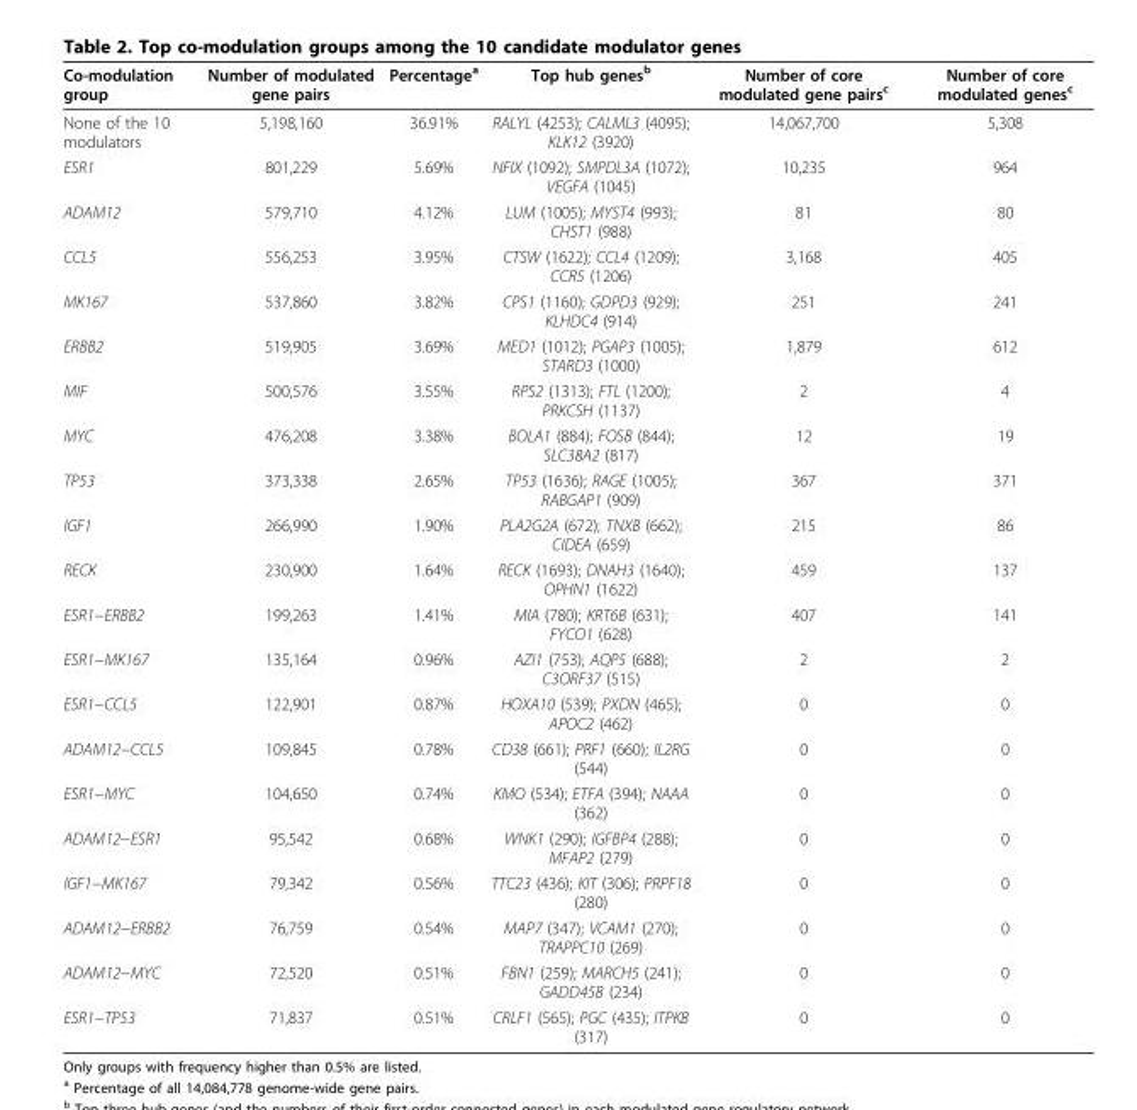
<table><tbody><tr><td>Co-modulation group</td><td>Number of modulated gene pairs</td><td>Percentage<sup>a</sup></td><td>Top hub genes<sup>b</sup></td><td>Number of core modulated gene pairs<sup>c</sup></td><td>Number of core modulated genes<sup>c</sup></td></tr><tr><td>None of the 10 modulators</td><td>5,198,160</td><td>36.91%</td><td>RALYL (4253); CALML3 (4095); KLK12 (3920)</td><td>14,067,700</td><td>5,308</td></tr><tr><td>ESR1</td><td>801,229</td><td>5.69%</td><td>NFIX (1092); SMPDL3A (1072); VEGFA (1045)</td><td>10,235</td><td>964</td></tr><tr><td>ADAM12</td><td>579,710</td><td>4.12%</td><td>LUM (1005); MYST4 (993); CHST1 (988)</td><td>81</td><td>80</td></tr><tr><td>CCL5</td><td>556,253</td><td>3.95%</td><td>CTSW (1622); CCL4 (1209); CCR5 (1206)</td><td>3,168</td><td>405</td></tr><tr><td>MK167</td><td>537,860</td><td>3.82%</td><td>CPS1 (1160); GDPD3 (929); KLHDC4 (914)</td><td>251</td><td>241</td></tr><tr><td>ERBB2</td><td>519,905</td><td>3.69%</td><td>MED1 (1012); PGAP3 (1005); STARD3 (1000)</td><td>1,879</td><td>612</td></tr><tr><td>MIF</td><td>500,576</td><td>3.55%</td><td>RPS2 (1313); FTL (1200); PRKCSH (1137)</td><td>2</td><td>4</td></tr><tr><td>MYC</td><td>476,208</td><td>3.38%</td><td>BOLA1 (884); FOSB (844); SLC38A2 (817)</td><td>12</td><td>19</td></tr><tr><td>TP53</td><td>373,338</td><td>2.65%</td><td>TP53 (1636); RAGE (1005); RABGAP1 (909)</td><td>367</td><td>371</td></tr><tr><td>IGF1</td><td>266,990</td><td>1.90%</td><td>PLA2G2A (672); TNXB (662); CIDEA (659)</td><td>215</td><td>86</td></tr><tr><td>RECK</td><td>230,900</td><td>1.64%</td><td>RECK (1693); DNAH3 (1640); OPHN1 (1622)</td><td>459</td><td>137</td></tr><tr><td>ESR1−ERBB2</td><td>199,263</td><td>1.41%</td><td>MIA (780); KRT6B (631); FYCO1 (628)</td><td>407</td><td>141</td></tr><tr><td>ESR1−MK167</td><td>135,164</td><td>0.96%</td><td>AZI1 (753); AQP5 (688); C3ORF37 (515)</td><td>2</td><td>2</td></tr><tr><td>ESR1−CCL5</td><td>122,901</td><td>0.87%</td><td>HOXA10 (539); PXDN (465); APOC2 (462)</td><td>0</td><td>0</td></tr><tr><td>ADAM12−CCL5</td><td>109,845</td><td>0.78%</td><td>CD38 (661); PRF1 (660); IL2RG (544)</td><td>0</td><td>0</td></tr><tr><td>ESR1−MYC</td><td>104,650</td><td>0.74%</td><td>KMO (534); ETFA (394); NAAA (362)</td><td>0</td><td>0</td></tr><tr><td>ADAM12−ESR1</td><td>95,542</td><td>0.68%</td><td>WNK1 (290); IGFBP4 (288); MFAP2 (279)</td><td>0</td><td>0</td></tr><tr><td>IGF1−MK167</td><td>79,342</td><td>0.56%</td><td>TTC23 (436); KIT (306); PRPF18 (280)</td><td>0</td><td>0</td></tr><tr><td>ADAM12−ERBB2</td><td>76,759</td><td>0.54%</td><td>MAP7 (347); VCAM1 (270); TRAPPC10 (269)</td><td>0</td><td>0</td></tr><tr><td>ADAM12−MYC</td><td>72,520</td><td>0.51%</td><td>FBN1 (259); MARCH5 (241); GADD45B (234)</td><td>0</td><td>0</td></tr><tr><td>ESR1−TP53</td><td>71,837</td><td>0.51%</td><td>CRLF1 (565); PGC (435); ITPKB (317)</td><td>0</td><td>0</td></tr></tbody></table>